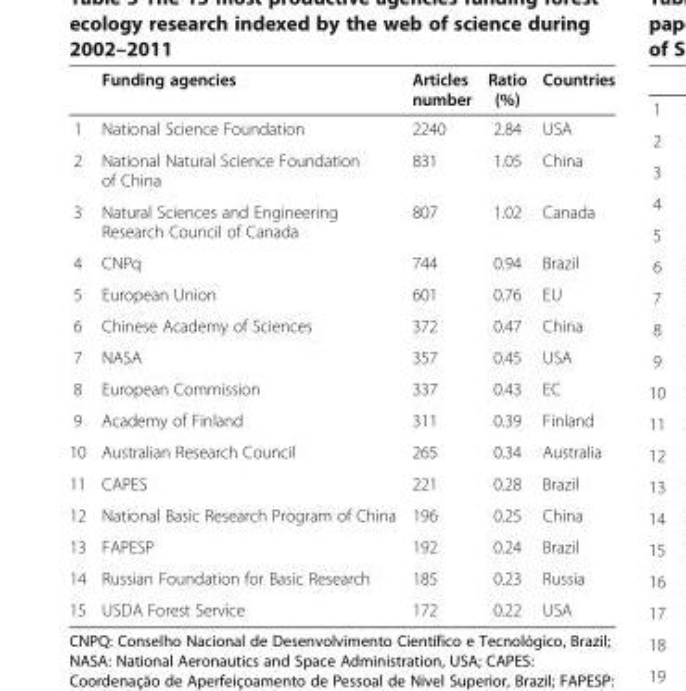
<table><thead><tr><td></td><td>Funding agencies</td><td>Articles number</td><td>Ratio (%)</td><td>Countries</td></tr></thead><tbody><tr><td>1</td><td>National Science Foundation</td><td>2240</td><td>2.84</td><td>USA</td></tr><tr><td>2</td><td>National Natural Science Foundation of China</td><td>831</td><td>1.05</td><td>China</td></tr><tr><td>3</td><td>Natural Sciences and Engineering Research Council of Canada</td><td>807</td><td>1.02</td><td>Canada</td></tr><tr><td>4</td><td>CNPq</td><td>744</td><td>0.94</td><td>Brazil</td></tr><tr><td>5</td><td>European Union</td><td>601</td><td>0.76</td><td>EU</td></tr><tr><td>6</td><td>Chinese Academy of Sciences</td><td>372</td><td>0.47</td><td>China</td></tr><tr><td>7</td><td>NASA</td><td>357</td><td>0.45</td><td>USA</td></tr><tr><td>8</td><td>European Commission</td><td>337</td><td>0.43</td><td>EC</td></tr><tr><td>9</td><td>Academy of Finland</td><td>311</td><td>0.39</td><td>Finland</td></tr><tr><td>10</td><td>Australian Research Council</td><td>265</td><td>0.34</td><td>Australia</td></tr><tr><td>11</td><td>CAPES</td><td>221</td><td>0.28</td><td>Brazil</td></tr><tr><td>12</td><td>National Basic Research Program of China</td><td>196</td><td>0.25</td><td>China</td></tr><tr><td>13</td><td>FAPESP</td><td>192</td><td>0.24</td><td>Brazil</td></tr><tr><td>14</td><td>Russian Foundation for Basic Research</td><td>185</td><td>0.23</td><td>Russia</td></tr><tr><td>15</td><td>USDA Forest Service</td><td>172</td><td>0.22</td><td>USA</td></tr></tbody></table>